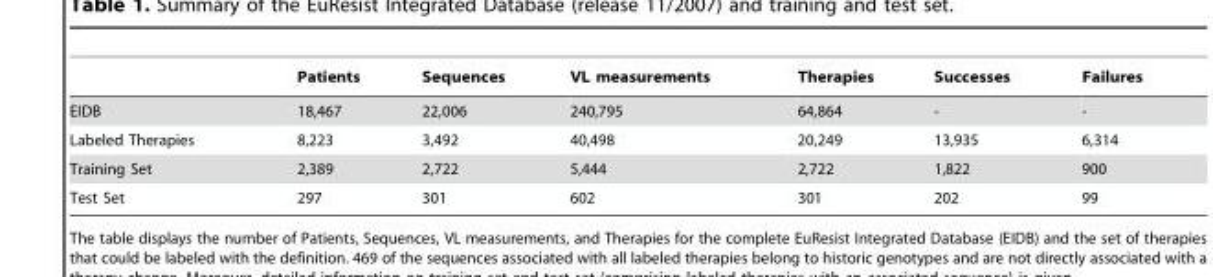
<table><thead><tr><td></td><td>Patients</td><td>Sequences</td><td>VL measurements</td><td>Therapies</td><td>Successes</td><td>Failures</td></tr></thead><tbody><tr><td>EIDB</td><td>18,467</td><td>22,006</td><td>240,795</td><td>64,864</td><td>-</td><td>-</td></tr><tr><td>Labeled Therapies</td><td>8,223</td><td>3,492</td><td>40,498</td><td>20,249</td><td>13,935</td><td>6,314</td></tr><tr><td>Training Set</td><td>2,389</td><td>2,722</td><td>5,444</td><td>2,722</td><td>1,822</td><td>900</td></tr><tr><td>Test Set</td><td>297</td><td>301</td><td>602</td><td>301</td><td>202</td><td>99</td></tr></tbody></table>